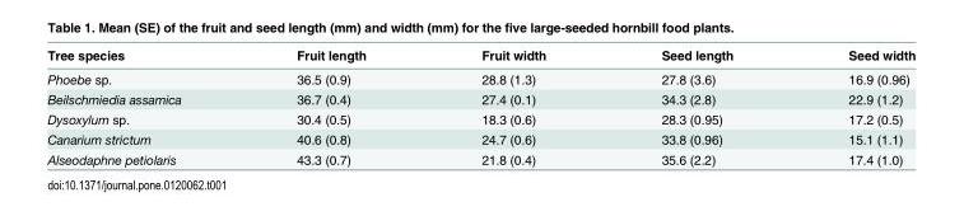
<table><thead><tr><td>Tree species</td><td>Fruit length</td><td>Fruit width</td><td>Seed length</td><td>Seed width</td></tr></thead><tbody><tr><td>Phoebe sp.</td><td>36.5 (0.9)</td><td>28.8 (1.3)</td><td>27.8 (3.6)</td><td>16.9 (0.96)</td></tr><tr><td>Beilschmiedia assamica</td><td>36.7 (0.4)</td><td>27.4 (0.1)</td><td>34.3 (2.8)</td><td>22.9 (1.2)</td></tr><tr><td>Dysoxylum sp.</td><td>30.4 (0.5)</td><td>18.3 (0.6)</td><td>28.3 (0.95)</td><td>17.2 (0.5)</td></tr><tr><td>Canarium strictum</td><td>40.6 (0.8)</td><td>24.7 (0.6)</td><td>33.8 (0.96)</td><td>15.1 (1.1)</td></tr><tr><td>Alseodaphne petiolaris</td><td>43.3 (0.7)</td><td>21.8 (0.4)</td><td>35.6 (2.2)</td><td>17.4 (1.0)</td></tr></tbody></table>